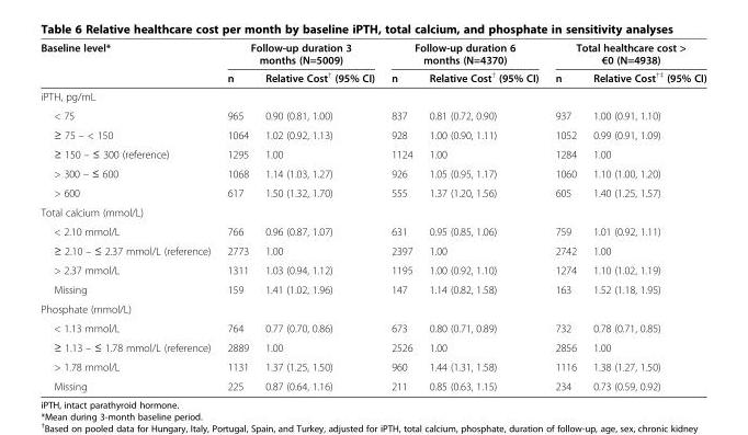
<table><thead><tr><td rowspan="2">Baseline level*</td><td colspan="2">Follow-up duration 3 months (N=5009)</td><td colspan="2">Follow-up duration 6 months (N=4370)</td><td colspan="2">Total healthcare cost &gt; €0 (N=4938)</td></tr><tr><td>n</td><td>Relative Cost<sup>†</sup> (95% CI)</td><td>n</td><td>Relative Cost<sup>†</sup> (95% CI)</td><td>n</td><td>Relative Cost<sup>†‡</sup> (95% CI)</td></tr></thead><tbody><tr><td colspan="7">iPTH, pg/mL</td></tr><tr><td>&lt; 75</td><td>965</td><td>0.90 (0.81, 1.00)</td><td>837</td><td>0.81 (0.72, 0.90)</td><td>937</td><td>1.00 (0.91, 1.10)</td></tr><tr><td>≥ 75 – &lt; 150</td><td>1064</td><td>1.02 (0.92, 1.13)</td><td>928</td><td>1.00 (0.90, 1.11)</td><td>1052</td><td>0.99 (0.91, 1.09)</td></tr><tr><td>≥ 150 – ≤ 300 (reference)</td><td>1295</td><td>1.00</td><td>1124</td><td>1.00</td><td>1284</td><td>1.00</td></tr><tr><td>&gt; 300 – ≤ 600</td><td>1068</td><td>1.14 (1.03, 1.27)</td><td>926</td><td>1.05 (0.95, 1.17)</td><td>1060</td><td>1.10 (1.00, 1.20)</td></tr><tr><td>&gt; 600</td><td>617</td><td>1.50 (1.32, 1.70)</td><td>555</td><td>1.37 (1.20, 1.56)</td><td>605</td><td>1.40 (1.25, 1.57)</td></tr><tr><td colspan="7">Total calcium (mmol/L)</td></tr><tr><td>&lt; 2.10 mmol/L</td><td>766</td><td>0.96 (0.87, 1.07)</td><td>631</td><td>0.95 (0.85, 1.06)</td><td>759</td><td>1.01 (0.92, 1.11)</td></tr><tr><td>≥ 2.10 – ≤ 2.37 mmol/L (reference)</td><td>2773</td><td>1.00</td><td>2397</td><td>1.00</td><td>2742</td><td>1.00</td></tr><tr><td>&gt; 2.37 mmol/L</td><td>1311</td><td>1.03 (0.94, 1.12)</td><td>1195</td><td>1.00 (0.92, 1.10)</td><td>1274</td><td>1.10 (1.02, 1.19)</td></tr><tr><td>Missing</td><td>159</td><td>1.41 (1.02, 1.96)</td><td>147</td><td>1.14 (0.82, 1.58)</td><td>163</td><td>1.52 (1.18, 1.95)</td></tr><tr><td colspan="7">Phosphate (mmol/L)</td></tr><tr><td>&lt; 1.13 mmol/L</td><td>764</td><td>0.77 (0.70, 0.86)</td><td>673</td><td>0.80 (0.71, 0.89)</td><td>732</td><td>0.78 (0.71, 0.85)</td></tr><tr><td>≥ 1.13 – ≤ 1.78 mmol/L (reference)</td><td>2889</td><td>1.00</td><td>2526</td><td>1.00</td><td>2856</td><td>1.00</td></tr><tr><td>&gt; 1.78 mmol/L</td><td>1131</td><td>1.37 (1.25, 1.50)</td><td>960</td><td>1.44 (1.31, 1.58)</td><td>1116</td><td>1.38 (1.27, 1.50)</td></tr><tr><td>Missing</td><td>225</td><td>0.87 (0.64, 1.16)</td><td>211</td><td>0.85 (0.63, 1.15)</td><td>234</td><td>0.73 (0.59, 0.92)</td></tr></tbody></table>